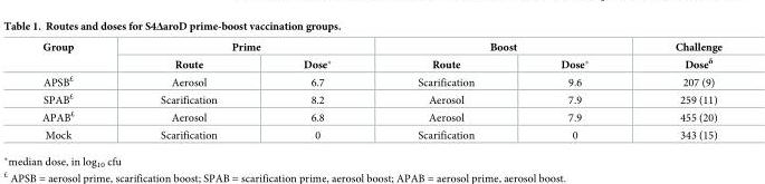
<table><thead><tr><td rowspan="2">Group</td><td colspan="2">Prime</td><td colspan="2">Boost</td><td rowspan="2">Challenge Dose<sup>δ</sup></td></tr><tr><td>Route</td><td>Dose*</td><td>Route</td><td>Dose*</td></tr></thead><tbody><tr><td>APSB<sup>£</sup></td><td>Aerosol</td><td>6.7</td><td>Scarification</td><td>9.6</td><td>207 (9)</td></tr><tr><td>SPAB<sup>£</sup></td><td>Scarification</td><td>8.2</td><td>Aerosol</td><td>7.9</td><td>259 (11)</td></tr><tr><td>APAB<sup>£</sup></td><td>Aerosol</td><td>6.8</td><td>Aerosol</td><td>7.9</td><td>455 (20)</td></tr><tr><td>Mock</td><td>Scarification</td><td>0</td><td>Scarification</td><td>0</td><td>343 (15)</td></tr></tbody></table>